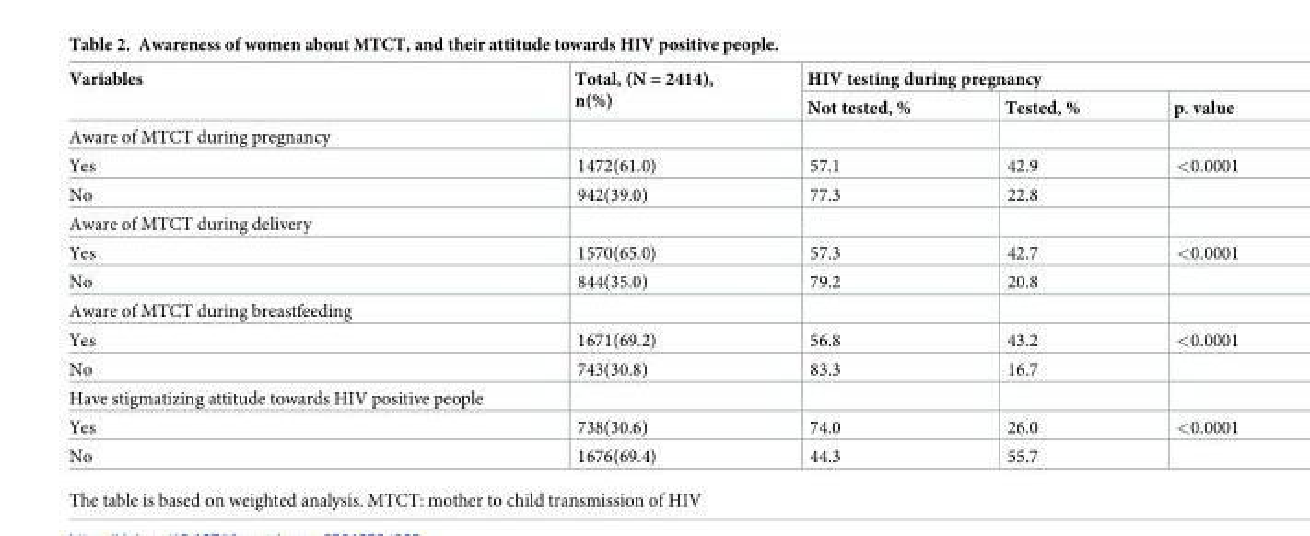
<table><thead><tr><td rowspan="2">Variables</td><td rowspan="2">Total, (N = 2414), n(%)</td><td colspan="3">HIV testing during pregnancy</td></tr><tr><td>Not tested, %</td><td>Tested, %</td><td>p. value</td></tr></thead><tbody><tr><td colspan="5">Aware of MTCT during pregnancy</td></tr><tr><td>Yes</td><td>1472(61.0)</td><td>57.1</td><td>42.9</td><td>&lt;0.0001</td></tr><tr><td>No</td><td>942(39.0)</td><td>77.3</td><td>22.8</td><td></td></tr><tr><td colspan="5">Aware of MTCT during delivery</td></tr><tr><td>Yes</td><td>1570(65.0)</td><td>57.3</td><td>42.7</td><td>&lt;0.0001</td></tr><tr><td>No</td><td>844(35.0)</td><td>79.2</td><td>20.8</td><td></td></tr><tr><td colspan="5">Aware of MTCT during breastfeeding</td></tr><tr><td>Yes</td><td>1671(69.2)</td><td>56.8</td><td>43.2</td><td>&lt;0.0001</td></tr><tr><td>No</td><td>743(30.8)</td><td>83.3</td><td>16.7</td><td></td></tr><tr><td colspan="5">Have stigmatizing attitude towards HIV positive people</td></tr><tr><td>Yes</td><td>738(30.6)</td><td>74.0</td><td>26.0</td><td>&lt;0.0001</td></tr><tr><td>No</td><td>1676(69.4)</td><td>44.3</td><td>55.7</td><td></td></tr></tbody></table>